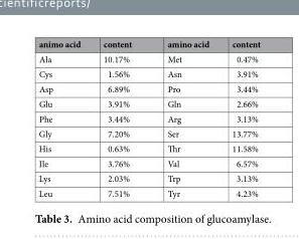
<table><thead><tr><td>animo acid</td><td>content</td><td>amino acid</td><td>content</td></tr></thead><tbody><tr><td>Ala</td><td>10.17%</td><td>Met</td><td>0.47%</td></tr><tr><td>Cys</td><td>1.56%</td><td>Asn</td><td>3.91%</td></tr><tr><td>Asp</td><td>6.89%</td><td>Pro</td><td>3.44%</td></tr><tr><td>Glu</td><td>3.91%</td><td>Gln</td><td>2.66%</td></tr><tr><td>Phe</td><td>3.44%</td><td>Arg</td><td>3.13%</td></tr><tr><td>Gly</td><td>7.20%</td><td>Ser</td><td>13.77%</td></tr><tr><td>His</td><td>0.63%</td><td>Thr</td><td>11.58%</td></tr><tr><td>Ile</td><td>3.76%</td><td>Val</td><td>6.57%</td></tr><tr><td>Lys</td><td>2.03%</td><td>Trp</td><td>3.13%</td></tr><tr><td>Leu</td><td>7.51%</td><td>Tyr</td><td>4.23%</td></tr></tbody></table>